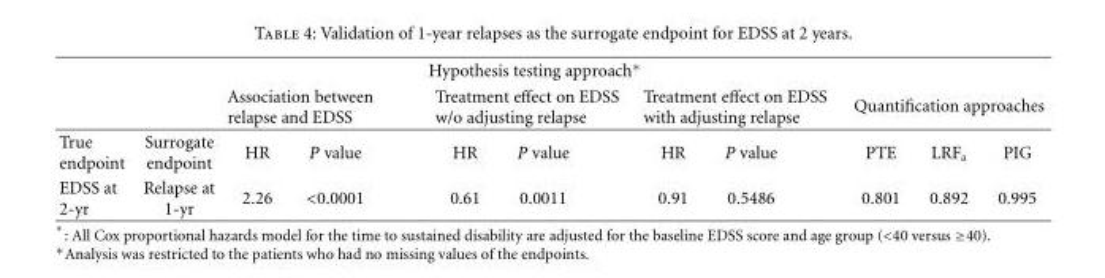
<table><thead><tr><td rowspan="3">True endpoint</td><td rowspan="3">Surrogate endpoint</td><td colspan="6">Hypothesis testing approach∗</td><td></td><td></td><td></td></tr><tr><td colspan="2">Association between relapse and EDSS</td><td colspan="2">Treatment effect on EDSS w/o adjusting relapse</td><td colspan="2">Treatment effect on EDSS with adjusting relapse</td><td colspan="3">Quantification approaches</td></tr><tr><td>HR</td><td>P value</td><td>HR</td><td>P value</td><td>HR</td><td>P value</td><td>PTE</td><td>LRF<sub>a</sub></td><td>PIG</td></tr></thead><tbody><tr><td>EDSS at 2-yr</td><td>Relapse at 1-yr</td><td>2.26</td><td>&lt;0.0001</td><td>0.61</td><td>0.0011</td><td>0.91</td><td>0.5486</td><td>0.801</td><td>0.892</td><td>0.995</td></tr></tbody></table>